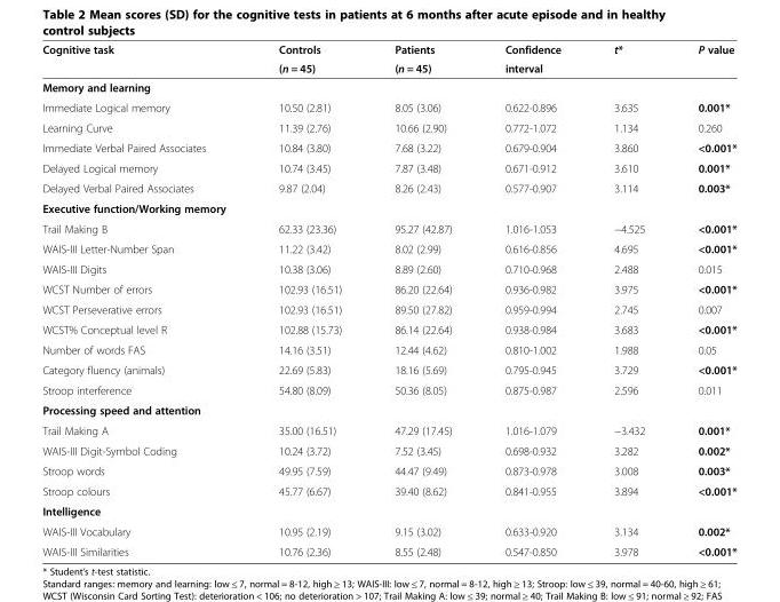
<table><thead><tr><td rowspan="2">Cognitive task</td><td rowspan="2">Controls (n = 45)</td><td rowspan="2">Patients (n = 45)</td><td rowspan="2">Confidence interval</td><td rowspan="2">t*</td><td rowspan="2">P value</td></tr><tr></tr></thead><tbody><tr><td colspan="6">Memory and learning</td></tr><tr><td>Immediate Logical memory</td><td>10.50 (2.81)</td><td>8.05 (3.06)</td><td>0.622-0.896</td><td>3.635</td><td>0.001*</td></tr><tr><td>Learning Curve</td><td>11.39 (2.76)</td><td>10.66 (2.90)</td><td>0.772-1.072</td><td>1.134</td><td>0.260</td></tr><tr><td>Immediate Verbal Paired Associates</td><td>10.84 (3.80)</td><td>7.68 (3.22)</td><td>0.679-0.904</td><td>3.860</td><td>&lt;0.001*</td></tr><tr><td>Delayed Logical memory</td><td>10.74 (3.45)</td><td>7.87 (3.48)</td><td>0.671-0.912</td><td>3.610</td><td>0.001*</td></tr><tr><td>Delayed Verbal Paired Associates</td><td>9.87 (2.04)</td><td>8.26 (2.43)</td><td>0.577-0.907</td><td>3.114</td><td>0.003*</td></tr><tr><td colspan="6">Executive function/Working memory</td></tr><tr><td>Trail Making B</td><td>62.33 (23.36)</td><td>95.27 (42.87)</td><td>1.016-1.053</td><td>−4.525</td><td>&lt;0.001*</td></tr><tr><td>WAIS-III Letter-Number Span</td><td>11.22 (3.42)</td><td>8.02 (2.99)</td><td>0.616-0.856</td><td>4.695</td><td>&lt;0.001*</td></tr><tr><td>WAIS-III Digits</td><td>10.38 (3.06)</td><td>8.89 (2.60)</td><td>0.710-0.968</td><td>2.488</td><td>0.015</td></tr><tr><td>WCST Number of errors</td><td>102.93 (16.51)</td><td>86.20 (22.64)</td><td>0.936-0.982</td><td>3.975</td><td>&lt;0.001*</td></tr><tr><td>WCST Perseverative errors</td><td>102.93 (16.51)</td><td>89.50 (27.82)</td><td>0.959-0.994</td><td>2.745</td><td>0.007</td></tr><tr><td>WCST% Conceptual level R</td><td>102.88 (15.73)</td><td>86.14 (22.64)</td><td>0.938-0.984</td><td>3.683</td><td>&lt;0.001*</td></tr><tr><td>Number of words FAS</td><td>14.16 (3.51)</td><td>12.44 (4.62)</td><td>0.810-1.002</td><td>1.988</td><td>0.05</td></tr><tr><td>Category fluency (animals)</td><td>22.69 (5.83)</td><td>18.16 (5.69)</td><td>0.795-0.945</td><td>3.729</td><td>&lt;0.001*</td></tr><tr><td>Stroop interference</td><td>54.80 (8.09)</td><td>50.36 (8.05)</td><td>0.875-0.987</td><td>2.596</td><td>0.011</td></tr><tr><td colspan="6">Processing speed and attention</td></tr><tr><td>Trail Making A</td><td>35.00 (16.51)</td><td>47.29 (17.45)</td><td>1.016-1.079</td><td>−3.432</td><td>0.001*</td></tr><tr><td>WAIS-III Digit-Symbol Coding</td><td>10.24 (3.72)</td><td>7.52 (3.45)</td><td>0.698-0.932</td><td>3.282</td><td>0.002*</td></tr><tr><td>Stroop words</td><td>49.95 (7.59)</td><td>44.47 (9.49)</td><td>0.873-0.978</td><td>3.008</td><td>0.003*</td></tr><tr><td>Stroop colours</td><td>45.77 (6.67)</td><td>39.40 (8.62)</td><td>0.841-0.955</td><td>3.894</td><td>&lt;0.001*</td></tr><tr><td colspan="6">Intelligence</td></tr><tr><td>WAIS-III Vocabulary</td><td>10.95 (2.19)</td><td>9.15 (3.02)</td><td>0.633-0.920</td><td>3.134</td><td>0.002*</td></tr><tr><td>WAIS-III Similarities</td><td>10.76 (2.36)</td><td>8.55 (2.48)</td><td>0.547-0.850</td><td>3.978</td><td>&lt;0.001*</td></tr></tbody></table>